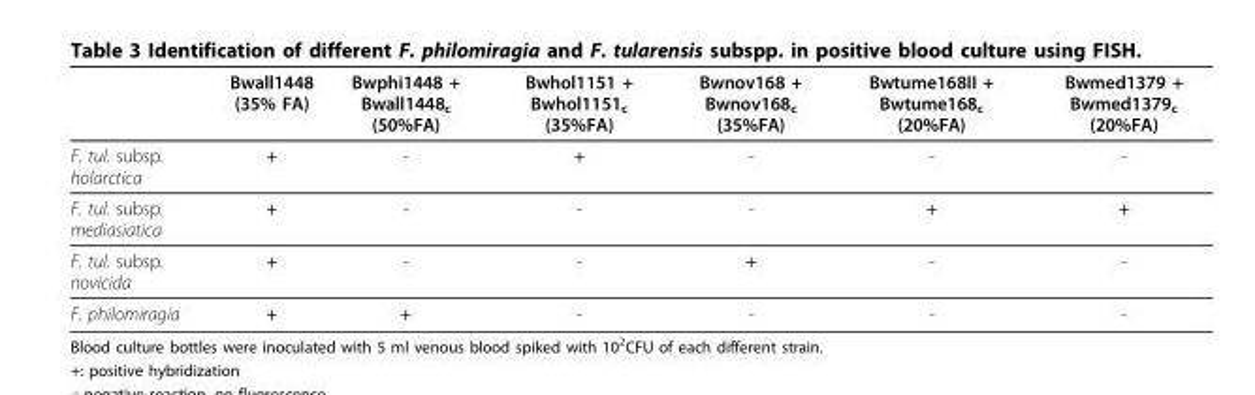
<table><thead><tr><td></td><td>Bwall1448 (35% FA)</td><td>Bwphi1448 + Bwall1448<sub>c</sub> (50%FA)</td><td>Bwhol1151 + Bwhol1151<sub>c</sub> (35%FA)</td><td>Bwnov168 + Bwnov168<sub>c</sub> (35%FA)</td><td>Bwtume168II + Bwtume168<sub>c</sub> (20%FA)</td><td>Bwmed1379 + Bwmed1379<sub>c</sub> (20%FA)</td></tr></thead><tbody><tr><td>F. tul. subsp. holarctica</td><td>+</td><td>-</td><td>+</td><td>-</td><td>-</td><td>-</td></tr><tr><td>F. tul. subsp. mediasiatica</td><td>+</td><td>-</td><td>-</td><td>-</td><td>+</td><td>+</td></tr><tr><td>F. tul. subsp. novicida</td><td>+</td><td>-</td><td>-</td><td>+</td><td>-</td><td>-</td></tr><tr><td>F. philomiragia</td><td>+</td><td>+</td><td>-</td><td>-</td><td>-</td><td>-</td></tr></tbody></table>